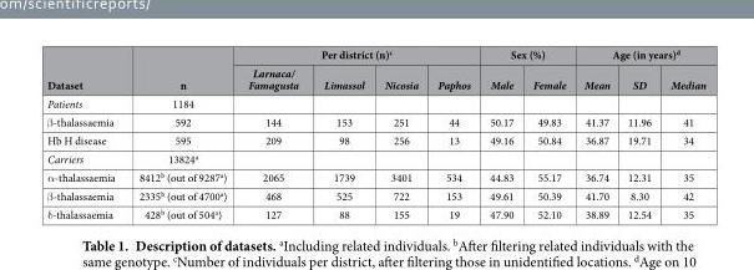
<table><thead><tr><td rowspan="2">Dataset</td><td rowspan="2">n</td><td colspan="4">Per district (n)<sup>c</sup></td><td colspan="2">Sex (%)</td><td colspan="3">Age (in years)<sup>d</sup></td></tr><tr><td>Larnaca/ Famagusta</td><td>Limassol</td><td>Nicosia</td><td>Paphos</td><td>Male</td><td>Female</td><td>Mean</td><td>SD</td><td>Median</td></tr></thead><tbody><tr><td>Patients</td><td>1184</td><td></td><td></td><td></td><td></td><td></td><td></td><td></td><td></td><td></td></tr><tr><td>β -thalassaemia</td><td>592</td><td>144</td><td>153</td><td>251</td><td>44</td><td>50.17</td><td>49.83</td><td>41.37</td><td>11.96</td><td>41</td></tr><tr><td>Hb H disease</td><td>595</td><td>209</td><td>98</td><td>256</td><td>13</td><td>49.16</td><td>50.84</td><td>36.87</td><td>19.71</td><td>34</td></tr><tr><td>Carriers</td><td>13824<sup>a</sup></td><td></td><td></td><td></td><td></td><td></td><td></td><td></td><td></td><td></td></tr><tr><td>α -thalassaemia</td><td>8412<sup>b</sup> (out of 9287<sup>a</sup>)</td><td>2065</td><td>1739</td><td>3401</td><td>534</td><td>44.83</td><td>55.17</td><td>36.74</td><td>12.31</td><td>35</td></tr><tr><td>β -thalassaemia</td><td>2335<sup>b</sup> (out of 4700<sup>a</sup>)</td><td>468</td><td>525</td><td>722</td><td>153</td><td>49.61</td><td>50.39</td><td>41.70</td><td>8.30</td><td>42</td></tr><tr><td>δ -thalassaemia</td><td>428<sup>b</sup> (out of 504<sup>a</sup>)</td><td>127</td><td>88</td><td>155</td><td>19</td><td>47.90</td><td>52.10</td><td>38.89</td><td>12.54</td><td>35</td></tr></tbody></table>